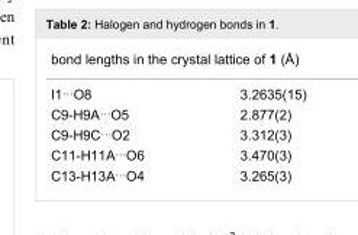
<table><tbody><tr><td colspan="2">bond lengths in the crystal lattice of 1 (Å)</td></tr><tr><td>I1<sup>…</sup>O8</td><td>3.2635(15)</td></tr><tr><td>C9-H9A<sup>…</sup>O5</td><td>2.877(2)</td></tr><tr><td>C9-H9C<sup>…</sup>O2</td><td>3.312(3)</td></tr><tr><td>C11-H11A<sup>…</sup>O6</td><td>3.470(3)</td></tr><tr><td>C13-H13A<sup>…</sup>O4</td><td>3.265(3)</td></tr></tbody></table>